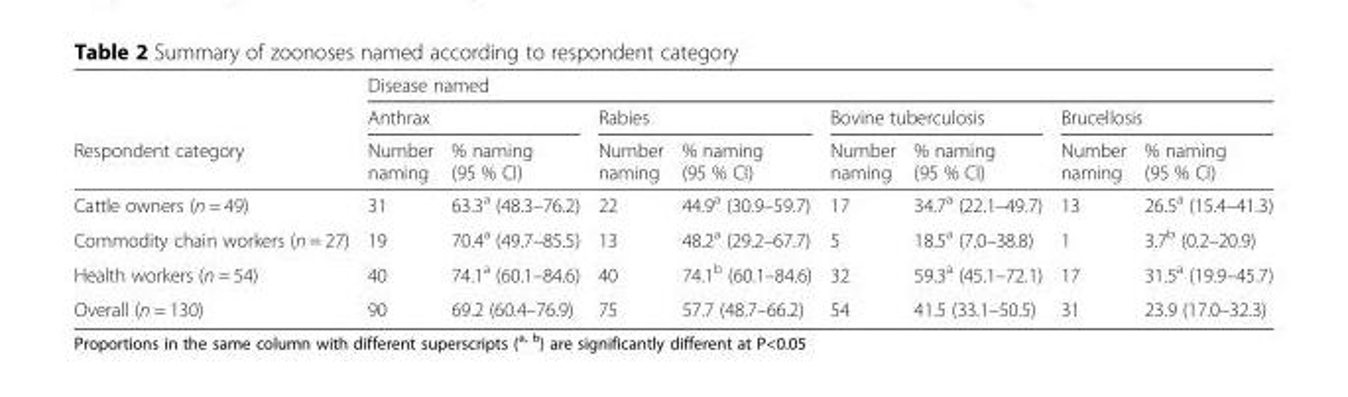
<table><thead><tr><td rowspan="3">Respondent category</td><td colspan="8">Disease named</td></tr><tr><td colspan="2">Anthrax</td><td colspan="2">Rabies</td><td colspan="2">Bovine tuberculosis</td><td colspan="2">Brucellosis</td></tr><tr><td>Number naming</td><td>% naming (95 % CI)</td><td>Number naming</td><td>% naming (95 % CI)</td><td>Number naming</td><td>% naming (95 % CI)</td><td>Number naming</td><td>% naming (95 % CI)</td></tr></thead><tbody><tr><td>Cattle owners (n = 49)</td><td>31</td><td>63.3<sup>a</sup> (48.3–76.2)</td><td>22</td><td>44.9<sup>a</sup> (30.9–59.7)</td><td>17</td><td>34.7<sup>a</sup> (22.1–49.7)</td><td>13</td><td>26.5<sup>a</sup> (15.4–41.3)</td></tr><tr><td>Commodity chain workers (n = 27)</td><td>19</td><td>70.4<sup>a</sup> (49.7–85.5)</td><td>13</td><td>48.2<sup>a</sup> (29.2–67.7)</td><td>5</td><td>18.5<sup>a</sup> (7.0–38.8)</td><td>1</td><td>3.7<sup>b</sup> (0.2–20.9)</td></tr><tr><td>Health workers (n = 54)</td><td>40</td><td>74.1<sup>a</sup> (60.1–84.6)</td><td>40</td><td>74.1<sup>b</sup> (60.1–84.6)</td><td>32</td><td>59.3<sup>a</sup> (45.1–72.1)</td><td>17</td><td>31.5<sup>a</sup> (19.9–45.7)</td></tr><tr><td>Overall (n = 130)</td><td>90</td><td>69.2 (60.4–76.9)</td><td>75</td><td>57.7 (48.7–66.2)</td><td>54</td><td>41.5 (33.1–50.5)</td><td>31</td><td>23.9 (17.0–32.3)</td></tr></tbody></table>